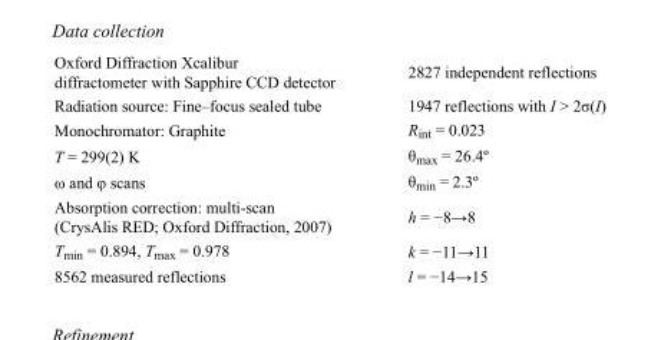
<table><tbody><tr><td>Oxford Diffraction Xcalibur diffractometer with Sapphire CCD detector</td><td>2827 independent reflections</td></tr><tr><td>Radiation source: Fine–focus sealed tube</td><td>1947 reflections with I &gt; 2σ(I)</td></tr><tr><td>Monochromator: Graphite</td><td>R<sub>int</sub> = 0.023</td></tr><tr><td>T = 299(2) K</td><td>θ<sub>max</sub> = 26.4º</td></tr><tr><td>ω and φ scans</td><td>θ<sub>min</sub> = 2.3º</td></tr><tr><td>Absorption correction: multi-scan (CrysAlis RED; Oxford Diffraction, 2007)</td><td>h = −8→8</td></tr><tr><td>T<sub>min</sub> = 0.894, T<sub>max</sub> = 0.978</td><td>k = −11→11</td></tr><tr><td>8562 measured reflections</td><td>l = −14→15</td></tr></tbody></table>